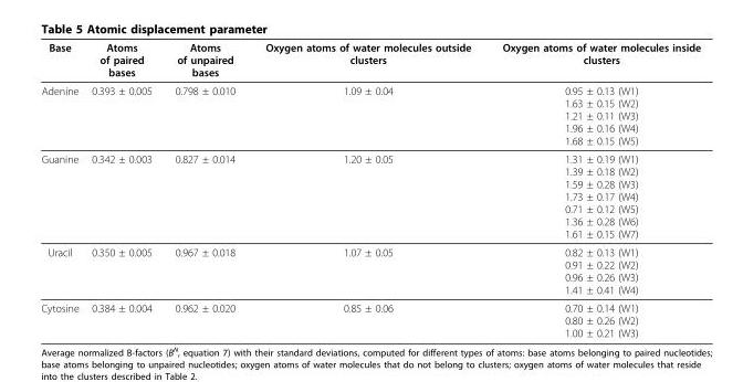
<table><thead><tr><td>Base</td><td>Atoms of paired bases</td><td>Atoms of unpaired bases</td><td>Oxygen atoms of water molecules outside clusters</td><td>Oxygen atoms of water molecules inside clusters</td></tr></thead><tbody><tr><td>Adenine</td><td>0.393 ± 0.005</td><td>0.798 ± 0.010</td><td>1.09 ± 0.04</td><td>0.95 ± 0.13 (W1) 1.63 ± 0.15 (W2) 1.21 ± 0.11 (W3) 1.96 ± 0.16 (W4) 1.68 ± 0.15 (W5)</td></tr><tr><td>Guanine</td><td>0.342 ± 0.003</td><td>0.827 ± 0.014</td><td>1.20 ± 0.05</td><td>1.31 ± 0.19 (W1) 1.39 ± 0.18 (W2) 1.59 ± 0.28 (W3) 1.73 ± 0.17 (W4) 0.71 ± 0.12 (W5) 1.36 ± 0.28 (W6) 1.61 ± 0.15 (W7)</td></tr><tr><td>Uracil</td><td>0.350 ± 0.005</td><td>0.967 ± 0.018</td><td>1.07 ± 0.05</td><td>0.82 ± 0.13 (W1) 0.91 ± 0.22 (W2) 0.96 ± 0.26 (W3) 1.41 ± 0.41 (W4)</td></tr><tr><td>Cytosine</td><td>0.384 ± 0.004</td><td>0.962 ± 0.020</td><td>0.85 ± 0.06</td><td>0.70 ± 0.14 (W1) 0.80 ± 0.26 (W2) 1.00 ± 0.21 (W3)</td></tr></tbody></table>